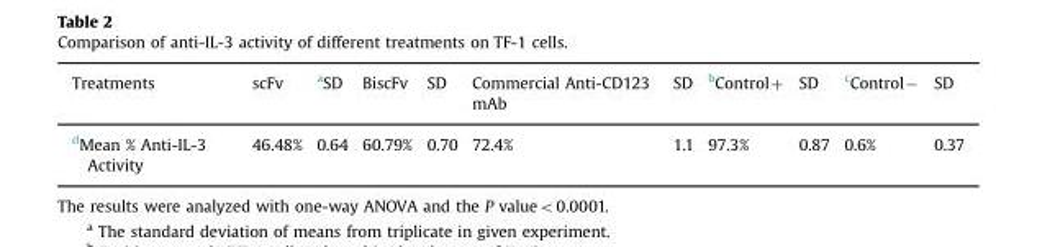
<table><thead><tr><td>Treatments</td><td>scFv</td><td>aSD</td><td>BiscFv</td><td>SD</td><td>Commercial Anti-CD123 mAb</td><td>SD</td><td>bControl+</td><td>SD</td><td>cControl−</td><td>SD</td></tr></thead><tbody><tr><td>dMean % Anti-IL-3 Activity</td><td>46.48%</td><td>0.64</td><td>60.79%</td><td>0.70</td><td>72.4%</td><td>1.1</td><td>97.3%</td><td>0.87</td><td>0.6%</td><td>0.37</td></tr></tbody></table>